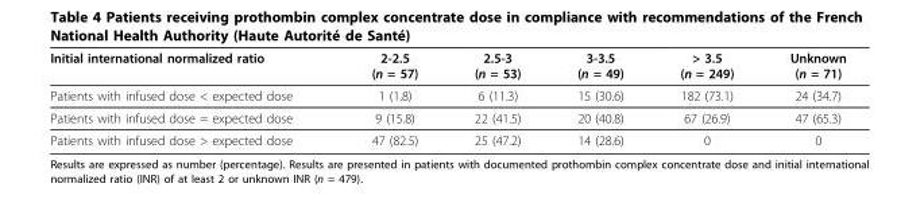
<table><thead><tr><td>Initial international normalized ratio</td><td>2-2.5 (n = 57)</td><td>2.5-3 (n = 53)</td><td>3-3.5 (n = 49)</td><td>&gt; 3.5 (n = 249)</td><td>Unknown (n = 71)</td></tr></thead><tbody><tr><td>Patients with infused dose &lt; expected dose</td><td>1 (1.8)</td><td>6 (11.3)</td><td>15 (30.6)</td><td>182 (73.1)</td><td>24 (34.7)</td></tr><tr><td>Patients with infused dose = expected dose</td><td>9 (15.8)</td><td>22 (41.5)</td><td>20 (40.8)</td><td>67 (26.9)</td><td>47 (65.3)</td></tr><tr><td>Patients with infused dose &gt; expected dose</td><td>47 (82.5)</td><td>25 (47.2)</td><td>14 (28.6)</td><td>0</td><td>0</td></tr></tbody></table>